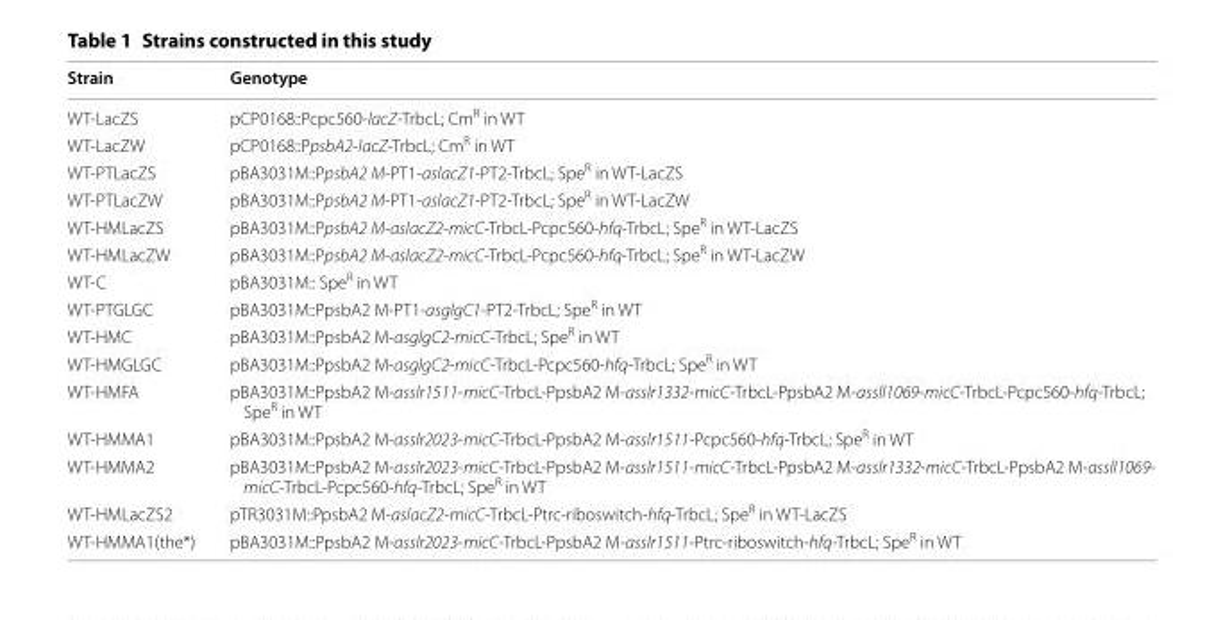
<table><thead><tr><td>Strain</td><td>Genotype</td></tr></thead><tbody><tr><td>WT-LacZS</td><td>pCP0168::Pcpc560-lacZ-TrbcL; Cm<sup>R</sup> in WT</td></tr><tr><td>WT-LacZW</td><td>pCP0168::PpsbA2-lacZ-TrbcL; Cm<sup>R</sup> in WT</td></tr><tr><td>WT-PTLacZS</td><td>pBA3031M::PpsbA2 M-PT1-aslacZ1-PT2-TrbcL; Spe<sup>R</sup> in WT-LacZS</td></tr><tr><td>WT-PTLacZW</td><td>pBA3031M::PpsbA2 M-PT1-aslacZ1-PT2-TrbcL; Spe<sup>R</sup> in WT-LacZW</td></tr><tr><td>WT-HMLacZS</td><td>pBA3031M::PpsbA2 M-aslacZ2-micC-TrbcL-Pcpc560-hfq-TrbcL; Spe<sup>R</sup> in WT-LacZS</td></tr><tr><td>WT-HMLacZW</td><td>pBA3031M::PpsbA2 M-aslacZ2-micC-TrbcL-Pcpc560-hfq-TrbcL; Spe<sup>R</sup> in WT-LacZW</td></tr><tr><td>WT-C</td><td>pBA3031M:: Spe<sup>R</sup> in WT</td></tr><tr><td>WT-PTGLGC</td><td>pBA3031M::PpsbA2 M-PT1-asglgC1-PT2-TrbcL; Spe<sup>R</sup> in WT</td></tr><tr><td>WT-HMC</td><td>pBA3031M::PpsbA2 M-asglgC2-micC-TrbcL; Spe<sup>R</sup> in WT</td></tr><tr><td>WT-HMGLGC</td><td>pBA3031M::PpsbA2 M-asglgC2-micC-TrbcL-Pcpc560-hfq-TrbcL; Spe<sup>R</sup> in WT</td></tr><tr><td>WT-HMFA</td><td>pBA3031M::PpsbA2 M-asslr1511-micC-TrbcL-PpsbA2 M-asslr1332-micC-TrbcL-PpsbA2 M-assll1069-micC-TrbcL-Pcpc560-hfq-TrbcL; Spe<sup>R</sup> in WT</td></tr><tr><td>WT-HMMA1</td><td>pBA3031M::PpsbA2 M-asslr2023-micC-TrbcL-PpsbA2 M-asslr1511-Pcpc560-hfq-TrbcL; Spe<sup>R</sup> in WT</td></tr><tr><td>WT-HMMA2</td><td>pBA3031M::PpsbA2 M-asslr2023-micC-TrbcL-PpsbA2 M-asslr1511-micC-TrbcL-PpsbA2 M-asslr1332-micC-TrbcL-PpsbA2 M-assll1069- micC-TrbcL-Pcpc560-hfq-TrbcL; Spe<sup>R</sup> in WT</td></tr><tr><td>WT-HMLacZS2</td><td>pTR3031M::PpsbA2 M-aslacZ2-micC-TrbcL-Ptrc-riboswitch-hfq-TrbcL; Spe<sup>R</sup> in WT-LacZS</td></tr><tr><td>WT-HMMA1(the*)</td><td>pBA3031M::PpsbA2 M-asslr2023-micC-TrbcL-PpsbA2 M-asslr1511-Ptrc-riboswitch-hfq-TrbcL; Spe<sup>R</sup> in WT</td></tr></tbody></table>